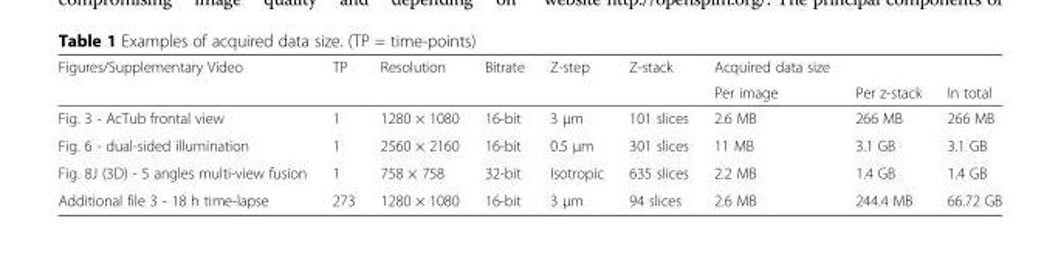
<table><thead><tr><td rowspan="2">Figures/Supplementary Video</td><td rowspan="2">TP</td><td rowspan="2">Resolution</td><td rowspan="2">Bitrate</td><td rowspan="2">Z-step</td><td rowspan="2">Z-stack</td><td rowspan="2">Acquired data size Per image</td><td rowspan="2">Per z-stack</td><td rowspan="2">In total</td></tr><tr></tr></thead><tbody><tr><td>Fig. 3 - AcTub frontal view</td><td>1</td><td>1280 × 1080</td><td>16-bit</td><td>3 μm</td><td>101 slices</td><td>2.6 MB</td><td>266 MB</td><td>266 MB</td></tr><tr><td>Fig. 6 - dual-sided illumination</td><td>1</td><td>2560 × 2160</td><td>16-bit</td><td>0.5 μm</td><td>301 slices</td><td>11 MB</td><td>3.1 GB</td><td>3.1 GB</td></tr><tr><td>Fig. 8J (3D) - 5 angles multi-view fusion</td><td>1</td><td>758 × 758</td><td>32-bit</td><td>Isotropic</td><td>635 slices</td><td>2.2 MB</td><td>1.4 GB</td><td>1.4 GB</td></tr><tr><td>Additional file 3 - 18 h time-lapse</td><td>273</td><td>1280 × 1080</td><td>16-bit</td><td>3 μm</td><td>94 slices</td><td>2.6 MB</td><td>244.4 MB</td><td>66.72 GB</td></tr></tbody></table>